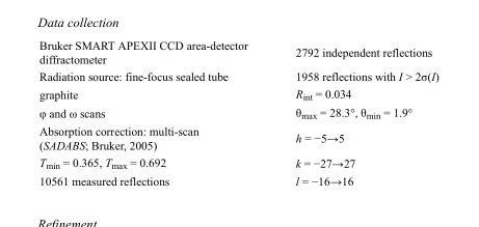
<table><tbody><tr><td>Bruker SMART APEXII CCD area-detector diffractometer</td><td>2792 independent reflections</td></tr><tr><td>Radiation source: fine-focus sealed tube</td><td>1958 reflections with I &gt; 2σ(I)</td></tr><tr><td>graphite</td><td>R<sub>int</sub> = 0.034</td></tr><tr><td>φ and ω scans</td><td>θ<sub>max</sub> = 28.3°, θ<sub>min</sub> = 1.9°</td></tr><tr><td>Absorption correction: multi-scan (SADABS; Bruker, 2005)</td><td>h = −5→5</td></tr><tr><td>T<sub>min</sub> = 0.365, T<sub>max</sub> = 0.692</td><td>k = −27→27</td></tr><tr><td>10561 measured reflections</td><td>l = −16→16</td></tr></tbody></table>